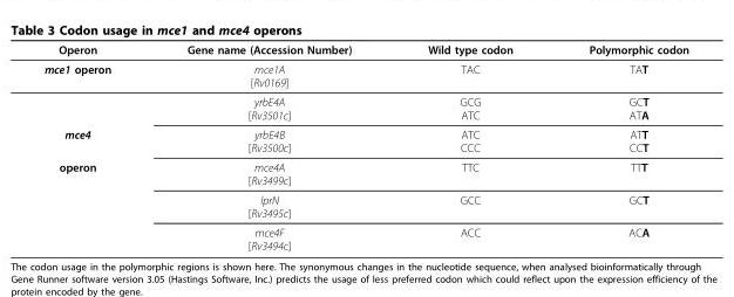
<table><thead><tr><td>Operon</td><td>Gene name (Accession Number)</td><td>Wild type codon</td><td>Polymorphic codon</td></tr></thead><tbody><tr><td rowspan="2">mce1 operon</td><td>mce1A [Rv0169]</td><td>TAC</td><td>TAT</td></tr><tr><td>yrbE4A [Rv3501c]</td><td>GCG ATC</td><td>GCT ATA</td></tr><tr><td>mce4</td><td>yrbE4B [Rv3500c]</td><td>ATC CCC</td><td>ATT CCT</td></tr><tr><td rowspan="3">operon</td><td>mce4A [Rv3499c]</td><td>TTC</td><td>TTT</td></tr><tr><td>lprN [Rv3495c]</td><td>GCC</td><td>GCT</td></tr><tr><td>mce4F [Rv3494c]</td><td>ACC</td><td>ACA</td></tr></tbody></table>